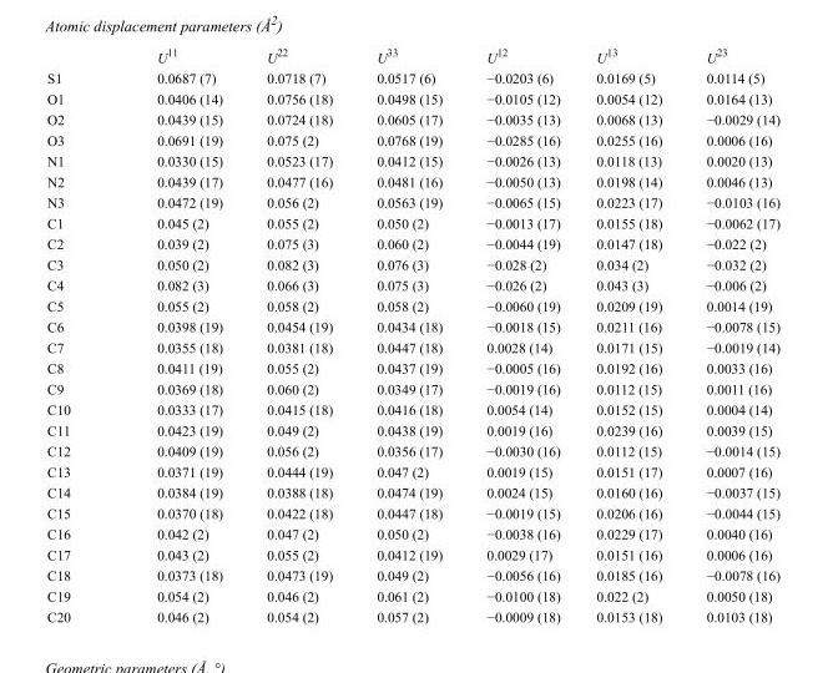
<table><thead><tr><td></td><td>U<sup>11</sup></td><td>U<sup>22</sup></td><td>U<sup>33</sup></td><td>U<sup>12</sup></td><td>U<sup>13</sup></td><td>U<sup>23</sup></td></tr></thead><tbody><tr><td>S1</td><td>0.0687 (7)</td><td>0.0718 (7)</td><td>0.0517 (6)</td><td>−0.0203 (6)</td><td>0.0169 (5)</td><td>0.0114 (5)</td></tr><tr><td>O1</td><td>0.0406 (14)</td><td>0.0756 (18)</td><td>0.0498 (15)</td><td>−0.0105 (12)</td><td>0.0054 (12)</td><td>0.0164 (13)</td></tr><tr><td>O2</td><td>0.0439 (15)</td><td>0.0724 (18)</td><td>0.0605 (17)</td><td>−0.0035 (13)</td><td>0.0068 (13)</td><td>−0.0029 (14)</td></tr><tr><td>O3</td><td>0.0691 (19)</td><td>0.075 (2)</td><td>0.0768 (19)</td><td>−0.0285 (16)</td><td>0.0255 (16)</td><td>0.0006 (16)</td></tr><tr><td>N1</td><td>0.0330 (15)</td><td>0.0523 (17)</td><td>0.0412 (15)</td><td>−0.0026 (13)</td><td>0.0118 (13)</td><td>0.0020 (13)</td></tr><tr><td>N2</td><td>0.0439 (17)</td><td>0.0477 (16)</td><td>0.0481 (16)</td><td>−0.0050 (13)</td><td>0.0198 (14)</td><td>0.0046 (13)</td></tr><tr><td>N3</td><td>0.0472 (19)</td><td>0.056 (2)</td><td>0.0563 (19)</td><td>−0.0065 (15)</td><td>0.0223 (17)</td><td>−0.0103 (16)</td></tr><tr><td>C1</td><td>0.045 (2)</td><td>0.055 (2)</td><td>0.050 (2)</td><td>−0.0013 (17)</td><td>0.0155 (18)</td><td>−0.0062 (17)</td></tr><tr><td>C2</td><td>0.039 (2)</td><td>0.075 (3)</td><td>0.060 (2)</td><td>−0.0044 (19)</td><td>0.0147 (18)</td><td>−0.022 (2)</td></tr><tr><td>C3</td><td>0.050 (2)</td><td>0.082 (3)</td><td>0.076 (3)</td><td>−0.028 (2)</td><td>0.034 (2)</td><td>−0.032 (2)</td></tr><tr><td>C4</td><td>0.082 (3)</td><td>0.066 (3)</td><td>0.075 (3)</td><td>−0.026 (2)</td><td>0.043 (3)</td><td>−0.006 (2)</td></tr><tr><td>C5</td><td>0.055 (2)</td><td>0.058 (2)</td><td>0.058 (2)</td><td>−0.0060 (19)</td><td>0.0209 (19)</td><td>0.0014 (19)</td></tr><tr><td>C6</td><td>0.0398 (19)</td><td>0.0454 (19)</td><td>0.0434 (18)</td><td>−0.0018 (15)</td><td>0.0211 (16)</td><td>−0.0078 (15)</td></tr><tr><td>C7</td><td>0.0355 (18)</td><td>0.0381 (18)</td><td>0.0447 (18)</td><td>0.0028 (14)</td><td>0.0171 (15)</td><td>−0.0019 (14)</td></tr><tr><td>C8</td><td>0.0411 (19)</td><td>0.055 (2)</td><td>0.0437 (19)</td><td>−0.0005 (16)</td><td>0.0192 (16)</td><td>0.0033 (16)</td></tr><tr><td>C9</td><td>0.0369 (18)</td><td>0.060 (2)</td><td>0.0349 (17)</td><td>−0.0019 (16)</td><td>0.0112 (15)</td><td>0.0011 (16)</td></tr><tr><td>C10</td><td>0.0333 (17)</td><td>0.0415 (18)</td><td>0.0416 (18)</td><td>0.0054 (14)</td><td>0.0152 (15)</td><td>0.0004 (14)</td></tr><tr><td>C11</td><td>0.0423 (19)</td><td>0.049 (2)</td><td>0.0438 (19)</td><td>0.0019 (16)</td><td>0.0239 (16)</td><td>0.0039 (15)</td></tr><tr><td>C12</td><td>0.0409 (19)</td><td>0.056 (2)</td><td>0.0356 (17)</td><td>−0.0030 (16)</td><td>0.0112 (15)</td><td>−0.0014 (15)</td></tr><tr><td>C13</td><td>0.0371 (19)</td><td>0.0444 (19)</td><td>0.047 (2)</td><td>0.0019 (15)</td><td>0.0151 (17)</td><td>0.0007 (16)</td></tr><tr><td>C14</td><td>0.0384 (19)</td><td>0.0388 (18)</td><td>0.0474 (19)</td><td>0.0024 (15)</td><td>0.0160 (16)</td><td>−0.0037 (15)</td></tr><tr><td>C15</td><td>0.0370 (18)</td><td>0.0422 (18)</td><td>0.0447 (18)</td><td>−0.0019 (15)</td><td>0.0206 (16)</td><td>−0.0044 (15)</td></tr><tr><td>C16</td><td>0.042 (2)</td><td>0.047 (2)</td><td>0.050 (2)</td><td>−0.0038 (16)</td><td>0.0229 (17)</td><td>0.0040 (16)</td></tr><tr><td>C17</td><td>0.043 (2)</td><td>0.055 (2)</td><td>0.0412 (19)</td><td>0.0029 (17)</td><td>0.0151 (16)</td><td>0.0006 (16)</td></tr><tr><td>C18</td><td>0.0373 (18)</td><td>0.0473 (19)</td><td>0.049 (2)</td><td>−0.0056 (16)</td><td>0.0185 (16)</td><td>−0.0078 (16)</td></tr><tr><td>C19</td><td>0.054 (2)</td><td>0.046 (2)</td><td>0.061 (2)</td><td>−0.0100 (18)</td><td>0.022 (2)</td><td>0.0050 (18)</td></tr><tr><td>C20</td><td>0.046 (2)</td><td>0.054 (2)</td><td>0.057 (2)</td><td>−0.0009 (18)</td><td>0.0153 (18)</td><td>0.0103 (18)</td></tr></tbody></table>